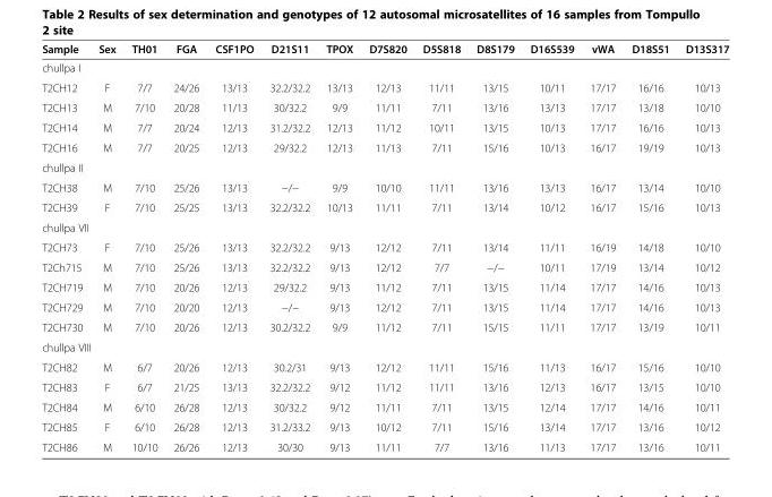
<table><thead><tr><td>Sample</td><td>Sex</td><td>TH01</td><td>FGA</td><td>CSF1PO</td><td>D21S11</td><td>TPOX</td><td>D7S820</td><td>D5S818</td><td>D8S179</td><td>D16S539</td><td>vWA</td><td>D18S51</td><td>D13S317</td></tr></thead><tbody><tr><td colspan="14">chullpa I</td></tr><tr><td>T2CH12</td><td>F</td><td>7/7</td><td>24/26</td><td>13/13</td><td>32.2/32.2</td><td>13/13</td><td>12/13</td><td>11/11</td><td>13/15</td><td>10/11</td><td>17/17</td><td>16/16</td><td>10/13</td></tr><tr><td>T2CH13</td><td>M</td><td>7/10</td><td>20/28</td><td>11/13</td><td>30/32.2</td><td>9/9</td><td>11/11</td><td>7/11</td><td>13/16</td><td>13/13</td><td>17/17</td><td>13/18</td><td>10/10</td></tr><tr><td>T2CH14</td><td>M</td><td>7/7</td><td>20/24</td><td>12/13</td><td>31.2/32.2</td><td>12/13</td><td>11/12</td><td>10/11</td><td>13/15</td><td>10/13</td><td>17/17</td><td>16/16</td><td>10/13</td></tr><tr><td>T2CH16</td><td>M</td><td>7/7</td><td>20/25</td><td>12/13</td><td>29/32.2</td><td>12/13</td><td>11/13</td><td>7/11</td><td>15/16</td><td>10/13</td><td>16/17</td><td>19/19</td><td>10/13</td></tr><tr><td colspan="14">chullpa II</td></tr><tr><td>T2CH38</td><td>M</td><td>7/10</td><td>25/26</td><td>13/13</td><td>−/−</td><td>9/9</td><td>10/10</td><td>11/11</td><td>13/16</td><td>13/13</td><td>16/17</td><td>13/14</td><td>10/10</td></tr><tr><td>T2CH39</td><td>F</td><td>7/10</td><td>25/25</td><td>13/13</td><td>32.2/32.2</td><td>10/13</td><td>11/11</td><td>7/11</td><td>13/14</td><td>10/12</td><td>16/17</td><td>15/16</td><td>10/13</td></tr><tr><td colspan="14">chullpa VII</td></tr><tr><td>T2CH73</td><td>F</td><td>7/10</td><td>25/26</td><td>13/13</td><td>32.2/32.2</td><td>9/13</td><td>12/12</td><td>7/11</td><td>13/14</td><td>11/11</td><td>16/19</td><td>14/18</td><td>10/10</td></tr><tr><td>T2Ch715</td><td>M</td><td>7/10</td><td>25/26</td><td>13/13</td><td>32.2/32.2</td><td>9/13</td><td>12/12</td><td>7/7</td><td>−/−</td><td>10/11</td><td>17/19</td><td>13/14</td><td>10/12</td></tr><tr><td>T2CH719</td><td>M</td><td>7/10</td><td>20/26</td><td>12/13</td><td>29/32.2</td><td>9/13</td><td>11/12</td><td>7/11</td><td>13/15</td><td>11/14</td><td>17/17</td><td>14/16</td><td>10/13</td></tr><tr><td>T2CH729</td><td>M</td><td>7/10</td><td>20/20</td><td>12/13</td><td>−/−</td><td>9/13</td><td>12/12</td><td>7/11</td><td>13/15</td><td>11/14</td><td>17/17</td><td>14/16</td><td>10/13</td></tr><tr><td>T2CH730</td><td>M</td><td>7/10</td><td>20/26</td><td>12/13</td><td>30.2/32.2</td><td>9/9</td><td>11/12</td><td>7/11</td><td>15/15</td><td>11/11</td><td>17/17</td><td>13/19</td><td>10/11</td></tr><tr><td colspan="14">chullpa VIII</td></tr><tr><td>T2CH82</td><td>M</td><td>6/7</td><td>20/26</td><td>12/13</td><td>30.2/31</td><td>9/13</td><td>12/12</td><td>11/11</td><td>15/16</td><td>11/13</td><td>16/17</td><td>15/16</td><td>10/10</td></tr><tr><td>T2CH83</td><td>F</td><td>6/7</td><td>21/25</td><td>13/13</td><td>32.2/32.2</td><td>9/12</td><td>11/12</td><td>11/11</td><td>13/16</td><td>12/13</td><td>16/17</td><td>13/15</td><td>10/10</td></tr><tr><td>T2CH84</td><td>M</td><td>6/10</td><td>26/28</td><td>12/13</td><td>30/32.2</td><td>9/12</td><td>11/11</td><td>7/11</td><td>13/15</td><td>12/14</td><td>17/17</td><td>14/16</td><td>10/11</td></tr><tr><td>T2CH85</td><td>F</td><td>6/10</td><td>26/28</td><td>12/13</td><td>31.2/33.2</td><td>9/13</td><td>10/12</td><td>7/11</td><td>15/16</td><td>13/14</td><td>17/17</td><td>13/16</td><td>10/12</td></tr><tr><td>T2CH86</td><td>M</td><td>10/10</td><td>26/26</td><td>12/13</td><td>30/30</td><td>9/13</td><td>11/11</td><td>7/7</td><td>13/16</td><td>11/13</td><td>17/17</td><td>13/16</td><td>10/11</td></tr></tbody></table>